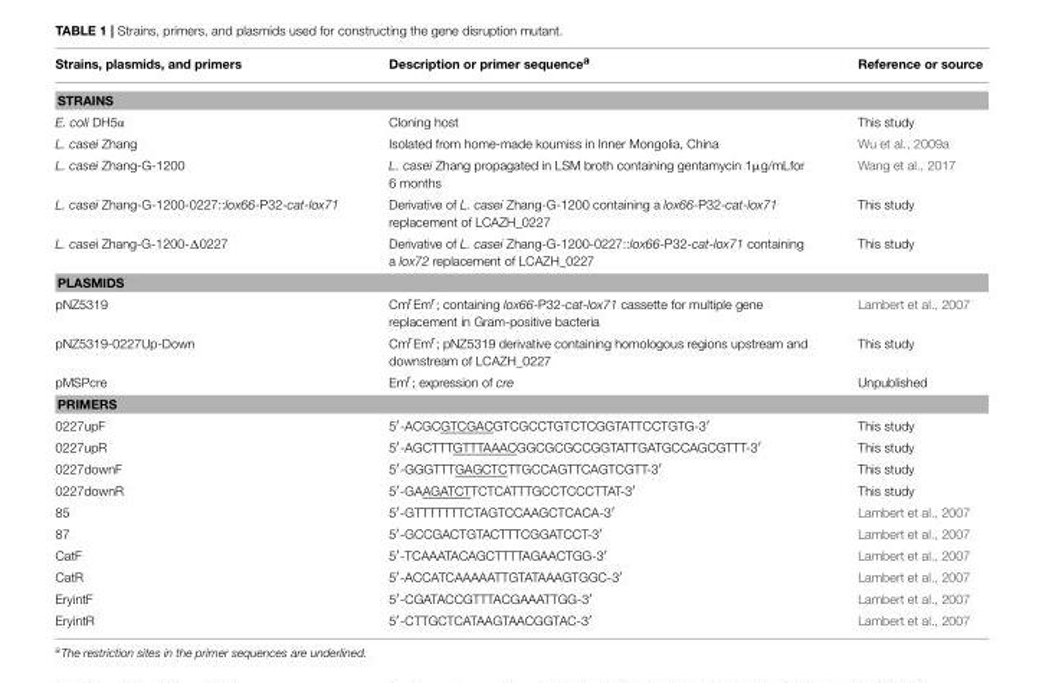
<table><thead><tr><td>Strains, plasmids, and primers</td><td>Description or primer sequence<sup>a</sup></td><td>Reference or source</td></tr></thead><tbody><tr><td colspan="3">STRAINS</td></tr><tr><td>E. coli DH5α</td><td>Cloning host</td><td>This study</td></tr><tr><td>L. casei Zhang</td><td>Isolated from home-made koumiss in Inner Mongolia, China</td><td>Wu et al., 2009a</td></tr><tr><td>L. casei Zhang-G-1200</td><td>L. casei Zhang propagated in LSM broth containing gentamycin 1µg/mLfor 6 months</td><td>Wang et al., 2017</td></tr><tr><td>L. casei Zhang-G-1200-0227::lox66-P32-cat-lox71</td><td>Derivative of L. casei Zhang-G-1200 containing a lox66-P32-cat-lox71 replacement of LCAZH_0227</td><td>This study</td></tr><tr><td>L. casei Zhang-G-1200-Δ0227</td><td>Derivative of L. casei Zhang-G-1200-0227::lox66-P32-cat-lox71 containing a lox72 replacement of LCAZH_0227</td><td>This study</td></tr><tr><td colspan="3">PLASMIDS</td></tr><tr><td>pNZ5319</td><td>Cm<sup>r</sup>Em<sup>r</sup>; containing lox66-P32-cat-lox71 cassette for multiple gene replacement in Gram-positive bacteria</td><td>Lambert et al., 2007</td></tr><tr><td>pNZ5319-0227Up-Down</td><td>Cm<sup>r</sup>Em<sup>r</sup>; pNZ5319 derivative containing homologous regions upstream and downstream of LCAZH_0227</td><td>This study</td></tr><tr><td>pMSPcre</td><td>Em<sup>r</sup>; expression of cre</td><td>Unpublished</td></tr><tr><td colspan="3">PRIMERS</td></tr><tr><td>0227upF</td><td>5′-ACGCGTCGACGTCGCCTGTCTCGGTATTCCTGTG-3′</td><td>This study</td></tr><tr><td>0227upR</td><td>5′-AGCTTTGTTTAAACGGCGCGCCGGTATTGATGCCAGCGTTT-3′</td><td>This study</td></tr><tr><td>0227downF</td><td>5′-GGGTTTGAGCTCTTGCCAGTTCAGTCGTT-3′</td><td>This study</td></tr><tr><td>0227downR</td><td>5′-GAAGATCTTCTCATTTGCCTCCCTTAT-3′</td><td>This study</td></tr><tr><td>85</td><td>5′-GTTTTTTTCTAGTCCAAGCTCACA-3′</td><td>Lambert et al., 2007</td></tr><tr><td>87</td><td>5′-GCCGACTGTACTTTCGGATCCT-3′</td><td>Lambert et al., 2007</td></tr><tr><td>CatF</td><td>5′-TCAAATACAGCTTTTAGAACTGG-3′</td><td>Lambert et al., 2007</td></tr><tr><td>CatR</td><td>5′-ACCATCAAAAATTGTATAAAGTGGC-3′</td><td>Lambert et al., 2007</td></tr><tr><td>EryintF</td><td>5′-CGATACCGTTTACGAAATTGG-3′</td><td>Lambert et al., 2007</td></tr><tr><td>EryintR</td><td>5′-CTTGCTCATAAGTAACGGTAC-3′</td><td>Lambert et al., 2007</td></tr></tbody></table>